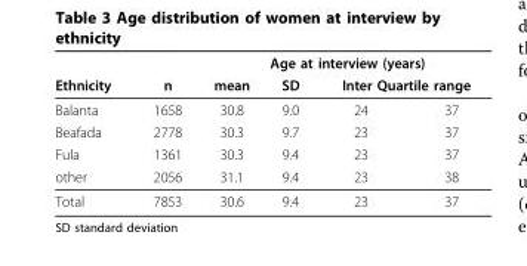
<table><thead><tr><td rowspan="3">Ethnicity Balanta</td><td rowspan="3">n 1658</td><td colspan="4">Age at interview (years)</td></tr><tr><td rowspan="2">mean 30.8</td><td rowspan="2">SD 9.0</td><td colspan="2">Inter Quartile range</td></tr><tr><td>24</td><td>37</td></tr></thead><tbody><tr><td>Beafada</td><td>2778</td><td>30.3</td><td>9.7</td><td>23</td><td>37</td></tr><tr><td>Fula</td><td>1361</td><td>30.3</td><td>9.4</td><td>23</td><td>37</td></tr><tr><td>other</td><td>2056</td><td>31.1</td><td>9.4</td><td>23</td><td>38</td></tr><tr><td>Total</td><td>7853</td><td>30.6</td><td>9.4</td><td>23</td><td>37</td></tr></tbody></table>